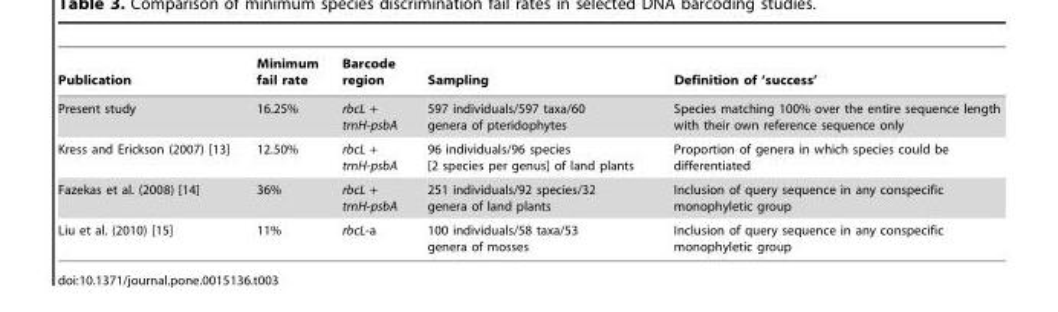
<table><thead><tr><td>Publication</td><td>Minimum fail rate</td><td>Barcode region</td><td>Sampling</td><td>Definition of ‘success’</td></tr></thead><tbody><tr><td>Present study</td><td>16.25%</td><td>rbcL + trnH-psbA</td><td>597 individuals/597 taxa/60 genera of pteridophytes</td><td>Species matching 100% over the entire sequence length with their own reference sequence only</td></tr><tr><td>Kress and Erickson (2007) [13]</td><td>12.50%</td><td>rbcL + trnH-psbA</td><td>96 individuals/96 species [2 species per genus] of land plants</td><td>Proportion of genera in which species could be differentiated</td></tr><tr><td>Fazekas et al. (2008) [14]</td><td>36%</td><td>rbcL + trnH-psbA</td><td>251 individuals/92 species/32 genera of land plants</td><td>Inclusion of query sequence in any conspecific monophyletic group</td></tr><tr><td>Liu et al. (2010) [15]</td><td>11%</td><td>rbcL-a</td><td>100 individuals/58 taxa/53 genera of mosses</td><td>Inclusion of query sequence in any conspecific monophyletic group</td></tr></tbody></table>